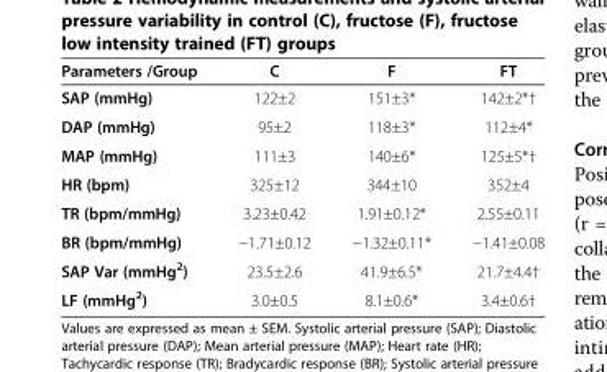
<table><thead><tr><td>Parameters /Group</td><td>C</td><td>F</td><td>FT</td></tr></thead><tbody><tr><td>SAP (mmHg)</td><td>122±2</td><td>151±3*</td><td>142±2*†</td></tr><tr><td>DAP (mmHg)</td><td>95±2</td><td>118±3*</td><td>112±4*</td></tr><tr><td>MAP (mmHg)</td><td>111±3</td><td>140±6*</td><td>125±5*†</td></tr><tr><td>HR (bpm)</td><td>325±12</td><td>344±10</td><td>352±4</td></tr><tr><td>TR (bpm/mmHg)</td><td>3.23±0.42</td><td>1.91±0.12*</td><td>2.55±0.11</td></tr><tr><td>BR (bpm/mmHg)</td><td>−1.71±0.12</td><td>−1.32±0.11*</td><td>−1.41±0.08</td></tr><tr><td>SAP Var (mmHg<sup>2</sup>)</td><td>23.5±2.6</td><td>41.9±6.5*</td><td>21.7±4.4†</td></tr><tr><td>LF (mmHg<sup>2</sup>)</td><td>3.0±0.5</td><td>8.1±0.6*</td><td>3.4±0.6†</td></tr></tbody></table>